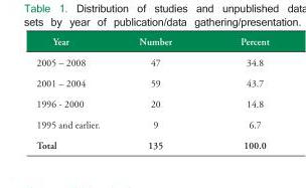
<table><thead><tr><td>Year</td><td>Number</td><td>Percent</td></tr></thead><tbody><tr><td>2005 – 2008</td><td>47</td><td>34.8</td></tr><tr><td>2001 – 2004</td><td>59</td><td>43.7</td></tr><tr><td>1996 - 2000</td><td>20</td><td>14.8</td></tr><tr><td>1995 and earlier.</td><td>9</td><td>6.7</td></tr><tr><td>Total</td><td>135</td><td>100.0</td></tr></tbody></table>